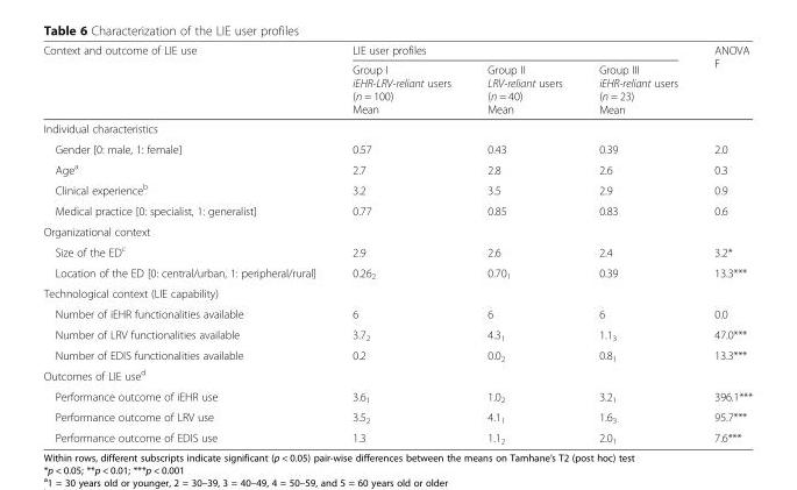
<table><thead><tr><td rowspan="2">Context and outcome of LIE use</td><td colspan="3">LIE user profiles</td><td rowspan="2">ANOVA F</td></tr><tr><td>Group I iEHR-LRV-reliant users (n = 100) Mean</td><td>Group II LRV-reliant users (n = 40) Mean</td><td>Group III iEHR-reliant users (n = 23) Mean</td></tr></thead><tbody><tr><td colspan="5">Individual characteristics</td></tr><tr><td>Gender [0: male, 1: female]</td><td>0.57</td><td>0.43</td><td>0.39</td><td>2.0</td></tr><tr><td>Age<sup>a</sup></td><td>2.7</td><td>2.8</td><td>2.6</td><td>0.3</td></tr><tr><td>Clinical experience<sup>b</sup></td><td>3.2</td><td>3.5</td><td>2.9</td><td>0.9</td></tr><tr><td>Medical practice [0: specialist, 1: generalist]</td><td>0.77</td><td>0.85</td><td>0.83</td><td>0.6</td></tr><tr><td colspan="5">Organizational context</td></tr><tr><td>Size of the ED<sup>c</sup></td><td>2.9</td><td>2.6</td><td>2.4</td><td>3.2*</td></tr><tr><td>Location of the ED [0: central/urban, 1: peripheral/rural]</td><td>0.26<sub>2</sub></td><td>0.70<sub>1</sub></td><td>0.39</td><td>13.3***</td></tr><tr><td colspan="5">Technological context (LIE capability)</td></tr><tr><td>Number of iEHR functionalities available</td><td>6</td><td>6</td><td>6</td><td>0.0</td></tr><tr><td>Number of LRV functionalities available</td><td>3.7<sub>2</sub></td><td>4.3<sub>1</sub></td><td>1.1<sub>3</sub></td><td>47.0***</td></tr><tr><td>Number of EDIS functionalities available</td><td>0.2</td><td>0.0<sub>2</sub></td><td>0.8<sub>1</sub></td><td>13.3***</td></tr><tr><td colspan="5">Outcomes of LIE use<sup>d</sup></td></tr><tr><td>Performance outcome of iEHR use</td><td>3.6<sub>1</sub></td><td>1.0<sub>2</sub></td><td>3.2<sub>1</sub></td><td>396.1***</td></tr><tr><td>Performance outcome of LRV use</td><td>3.5<sub>2</sub></td><td>4.1<sub>1</sub></td><td>1.6<sub>3</sub></td><td>95.7***</td></tr><tr><td>Performance outcome of EDIS use</td><td>1.3</td><td>1.1<sub>2</sub></td><td>2.0<sub>1</sub></td><td>7.6***</td></tr></tbody></table>